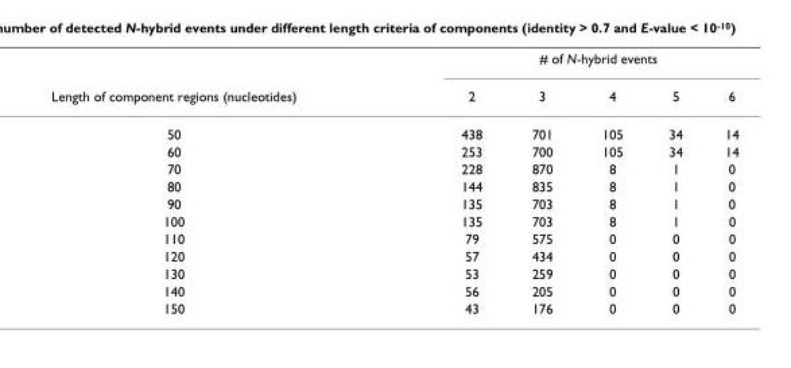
<table><thead><tr><td rowspan="2">Length of component regions (nucleotides)</td><td colspan="5"># of N-hybrid events</td></tr><tr><td>2</td><td>3</td><td>4</td><td>5</td><td>6</td></tr></thead><tbody><tr><td>50</td><td>438</td><td>701</td><td>105</td><td>34</td><td>14</td></tr><tr><td>60</td><td>253</td><td>700</td><td>105</td><td>34</td><td>14</td></tr><tr><td>70</td><td>228</td><td>870</td><td>8</td><td>1</td><td>0</td></tr><tr><td>80</td><td>144</td><td>835</td><td>8</td><td>1</td><td>0</td></tr><tr><td>90</td><td>135</td><td>703</td><td>8</td><td>1</td><td>0</td></tr><tr><td>100</td><td>135</td><td>703</td><td>8</td><td>1</td><td>0</td></tr><tr><td>110</td><td>79</td><td>575</td><td>0</td><td>0</td><td>0</td></tr><tr><td>120</td><td>57</td><td>434</td><td>0</td><td>0</td><td>0</td></tr><tr><td>130</td><td>53</td><td>259</td><td>0</td><td>0</td><td>0</td></tr><tr><td>140</td><td>56</td><td>205</td><td>0</td><td>0</td><td>0</td></tr><tr><td>150</td><td>43</td><td>176</td><td>0</td><td>0</td><td>0</td></tr></tbody></table>